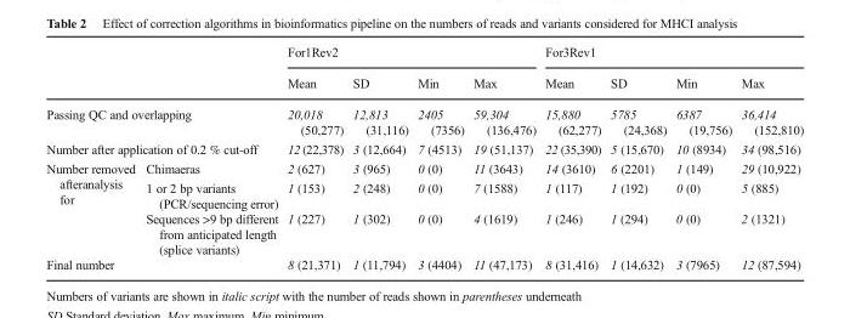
<table><thead><tr><td rowspan="2"></td><td rowspan="2"></td><td colspan="4">For1Rev2</td><td colspan="4">For3Rev1</td></tr><tr><td>Mean</td><td>SD</td><td>Min</td><td>Max</td><td>Mean</td><td>SD</td><td>Min</td><td>Max</td></tr></thead><tbody><tr><td colspan="2">Passing QC and overlapping</td><td>20,018 (50,277)</td><td>12,813 (31,116)</td><td>2405 (7356)</td><td>59,304 (136,476)</td><td>15,880 (62,277)</td><td>5785 (24,368)</td><td>6387 (19,756)</td><td>36,414 (152,810)</td></tr><tr><td colspan="2">Number after application of 0.2 % cut-off</td><td>12 (22,378)</td><td>3 (12,664)</td><td>7 (4513)</td><td>19 (51,137)</td><td>22 (35,390)</td><td>5 (15,670)</td><td>10 (8934)</td><td>34 (98,516)</td></tr><tr><td rowspan="3">Number removed afteranalysis for</td><td>Chimaeras</td><td>2 (627)</td><td>3 (965)</td><td>0 (0)</td><td>11 (3643)</td><td>14 (3610)</td><td>6 (2201)</td><td>1 (149)</td><td>29 (10,922)</td></tr><tr><td>1 or 2 bp variants (PCR/sequencing error)</td><td>1 (153)</td><td>2 (248)</td><td>0 (0)</td><td>7 (1588)</td><td>1 (117)</td><td>1 (192)</td><td>0 (0)</td><td>5 (885)</td></tr><tr><td>Sequences &gt;9 bp different from anticipated length (splice variants)</td><td>1 (227)</td><td>1 (302)</td><td>0 (0)</td><td>4 (1619)</td><td>1 (246)</td><td>1 (294)</td><td>0 (0)</td><td>2 (1321)</td></tr><tr><td colspan="2">Final number</td><td>8 (21,371)</td><td>1 (11,794)</td><td>3 (4404)</td><td>11 (47,173)</td><td>8 (31,416)</td><td>1 (14,632)</td><td>3 (7965)</td><td>12 (87,594)</td></tr></tbody></table>